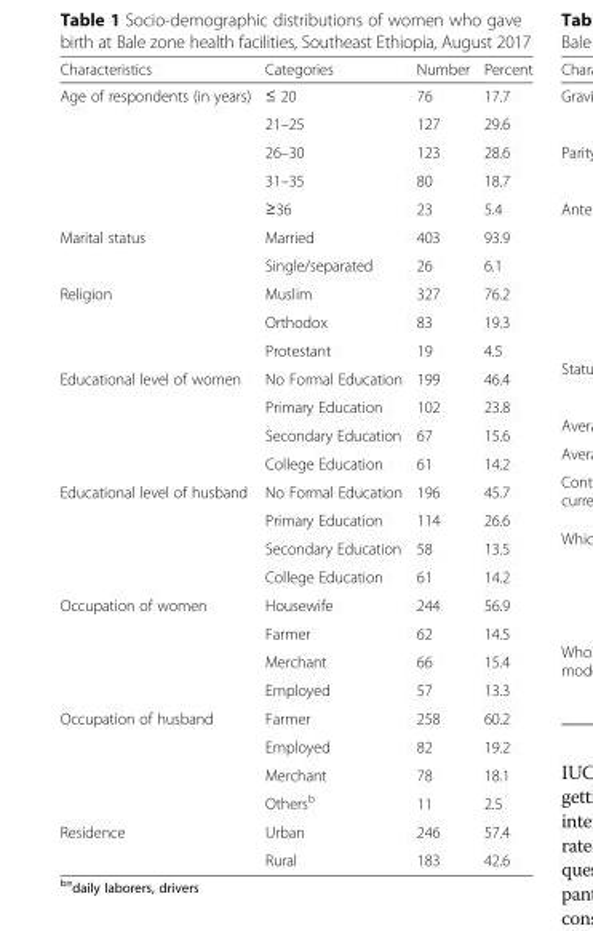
<table><thead><tr><td>Characteristics</td><td>Categories</td><td>Number</td><td>Percent</td></tr></thead><tbody><tr><td rowspan="5">Age of respondents (in years)</td><td>≤ 20</td><td>76</td><td>17.7</td></tr><tr><td>21–25</td><td>127</td><td>29.6</td></tr><tr><td>26–30</td><td>123</td><td>28.6</td></tr><tr><td>31–35</td><td>80</td><td>18.7</td></tr><tr><td>≥36</td><td>23</td><td>5.4</td></tr><tr><td rowspan="2">Marital status</td><td>Married</td><td>403</td><td>93.9</td></tr><tr><td>Single/separated</td><td>26</td><td>6.1</td></tr><tr><td rowspan="3">Religion</td><td>Muslim</td><td>327</td><td>76.2</td></tr><tr><td>Orthodox</td><td>83</td><td>19.3</td></tr><tr><td>Protestant</td><td>19</td><td>4.5</td></tr><tr><td rowspan="4">Educational level of women</td><td>No Formal Education</td><td>199</td><td>46.4</td></tr><tr><td>Primary Education</td><td>102</td><td>23.8</td></tr><tr><td>Secondary Education</td><td>67</td><td>15.6</td></tr><tr><td>College Education</td><td>61</td><td>14.2</td></tr><tr><td rowspan="4">Educational level of husband</td><td>No Formal Education</td><td>196</td><td>45.7</td></tr><tr><td>Primary Education</td><td>114</td><td>26.6</td></tr><tr><td>Secondary Education</td><td>58</td><td>13.5</td></tr><tr><td>College Education</td><td>61</td><td>14.2</td></tr><tr><td rowspan="4">Occupation of women</td><td>Housewife</td><td>244</td><td>56.9</td></tr><tr><td>Farmer</td><td>62</td><td>14.5</td></tr><tr><td>Merchant</td><td>66</td><td>15.4</td></tr><tr><td>Employed</td><td>57</td><td>13.3</td></tr><tr><td rowspan="4">Occupation of husband</td><td>Farmer</td><td>258</td><td>60.2</td></tr><tr><td>Employed</td><td>82</td><td>19.2</td></tr><tr><td>Merchant</td><td>78</td><td>18.1</td></tr><tr><td>Others<sup>b</sup></td><td>11</td><td>2.5</td></tr><tr><td rowspan="2">Residence</td><td>Urban</td><td>246</td><td>57.4</td></tr><tr><td>Rural</td><td>183</td><td>42.6</td></tr></tbody></table>